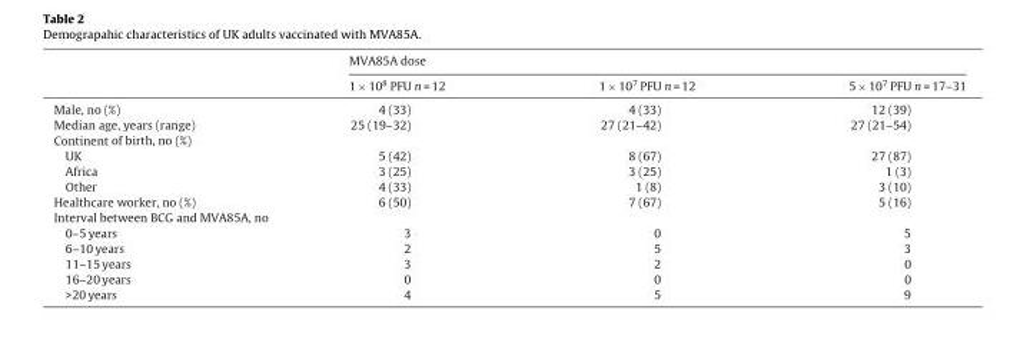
<table><thead><tr><td rowspan="2"></td><td colspan="3">MVA85A dose</td></tr><tr><td>1 × 10<sup>8</sup> PFU n = 12</td><td>1 × 10<sup>7</sup> PFU n = 12</td><td>5 × 10<sup>7</sup> PFU n = 17–31</td></tr></thead><tbody><tr><td>Male, no (%)</td><td>4 (33)</td><td>4 (33)</td><td>12 (39)</td></tr><tr><td>Median age, years (range)</td><td>25 (19–32)</td><td>27 (21–42)</td><td>27 (21–54)</td></tr><tr><td colspan="4">Continent of birth, no (%)</td></tr><tr><td>UK</td><td>5 (42)</td><td>8 (67)</td><td>27 (87)</td></tr><tr><td>Africa</td><td>3 (25)</td><td>3 (25)</td><td>1 (3)</td></tr><tr><td>Other</td><td>4 (33)</td><td>1 (8)</td><td>3 (10)</td></tr><tr><td>Healthcare worker, no (%)</td><td>6 (50)</td><td>7 (67)</td><td>5 (16)</td></tr><tr><td colspan="4">Interval between BCG and MVA85A, no</td></tr><tr><td>0–5 years</td><td>3</td><td>0</td><td>5</td></tr><tr><td>6–10 years</td><td>2</td><td>5</td><td>3</td></tr><tr><td>11–15 years</td><td>3</td><td>2</td><td>0</td></tr><tr><td>16–20 years</td><td>0</td><td>0</td><td>0</td></tr><tr><td>&gt;20 years</td><td>4</td><td>5</td><td>9</td></tr></tbody></table>